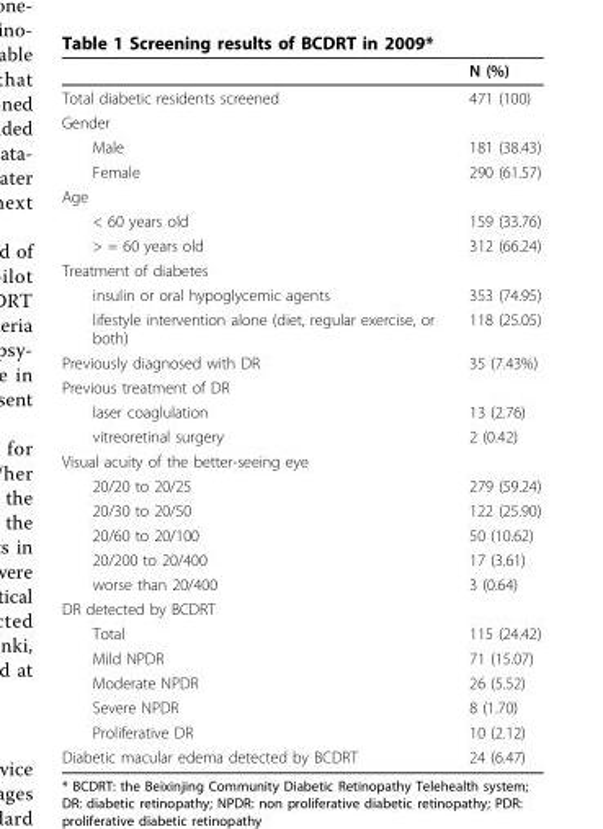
<table><thead><tr><td></td><td>N (%)</td></tr></thead><tbody><tr><td>Total diabetic residents screened</td><td>471 (100)</td></tr><tr><td colspan="2">Gender</td></tr><tr><td>Male</td><td>181 (38.43)</td></tr><tr><td>Female</td><td>290 (61.57)</td></tr><tr><td colspan="2">Age</td></tr><tr><td>&lt; 60 years old</td><td>159 (33.76)</td></tr><tr><td>&gt; = 60 years old</td><td>312 (66.24)</td></tr><tr><td colspan="2">Treatment of diabetes</td></tr><tr><td>insulin or oral hypoglycemic agents</td><td>353 (74.95)</td></tr><tr><td>lifestyle intervention alone (diet, regular exercise, or both)</td><td>118 (25.05)</td></tr><tr><td>Previously diagnosed with DR</td><td>35 (7.43%)</td></tr><tr><td colspan="2">Previous treatment of DR</td></tr><tr><td>laser coaglulation</td><td>13 (2.76)</td></tr><tr><td>vitreoretinal surgery</td><td>2 (0.42)</td></tr><tr><td colspan="2">Visual acuity of the better-seeing eye</td></tr><tr><td>20/20 to 20/25</td><td>279 (59.24)</td></tr><tr><td>20/30 to 20/50</td><td>122 (25.90)</td></tr><tr><td>20/60 to 20/100</td><td>50 (10.62)</td></tr><tr><td>20/200 to 20/400</td><td>17 (3.61)</td></tr><tr><td>worse than 20/400</td><td>3 (0.64)</td></tr><tr><td colspan="2">DR detected by BCDRT</td></tr><tr><td>Total</td><td>115 (24.42)</td></tr><tr><td>Mild NPDR</td><td>71 (15.07)</td></tr><tr><td>Moderate NPDR</td><td>26 (5.52)</td></tr><tr><td>Severe NPDR</td><td>8 (1.70)</td></tr><tr><td>Proliferative DR</td><td>10 (2.12)</td></tr><tr><td>Diabetic macular edema detected by BCDRT</td><td>24 (6.47)</td></tr></tbody></table>